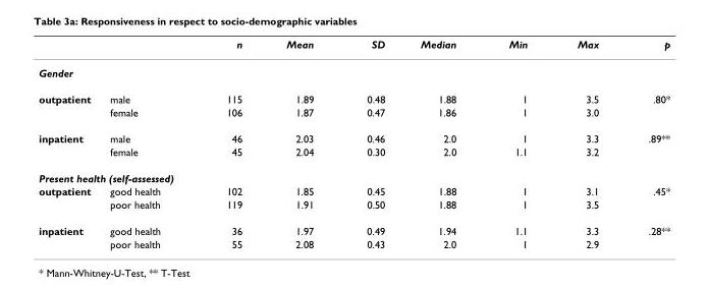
<table><thead><tr><td></td><td></td><td>n</td><td>Mean</td><td>SD</td><td>Median</td><td>Min</td><td>Max</td><td>p</td></tr></thead><tbody><tr><td colspan="9">Gender</td></tr><tr><td rowspan="2">outpatient</td><td>male</td><td>115</td><td>1.89</td><td>0.48</td><td>1.88</td><td>1</td><td>3.5</td><td>.80*</td></tr><tr><td>female</td><td>106</td><td>1.87</td><td>0.47</td><td>1.86</td><td>1</td><td>3.0</td><td></td></tr><tr><td rowspan="2">inpatient</td><td>male</td><td>46</td><td>2.03</td><td>0.46</td><td>2.0</td><td>1</td><td>3.3</td><td>.89**</td></tr><tr><td>female</td><td>45</td><td>2.04</td><td>0.30</td><td>2.0</td><td>1.1</td><td>3.2</td><td></td></tr><tr><td colspan="9">Present health (self-assessed)</td></tr><tr><td rowspan="2">outpatient</td><td>good health</td><td>102</td><td>1.85</td><td>0.45</td><td>1.88</td><td>1</td><td>3.1</td><td>.45*</td></tr><tr><td>poor health</td><td>119</td><td>1.91</td><td>0.50</td><td>1.88</td><td>1</td><td>3.5</td><td></td></tr><tr><td rowspan="2">inpatient</td><td>good health</td><td>36</td><td>1.97</td><td>0.49</td><td>1.94</td><td>1.1</td><td>3.3</td><td>.28**</td></tr><tr><td>poor health</td><td>55</td><td>2.08</td><td>0.43</td><td>2.0</td><td>1</td><td>2.9</td><td></td></tr></tbody></table>